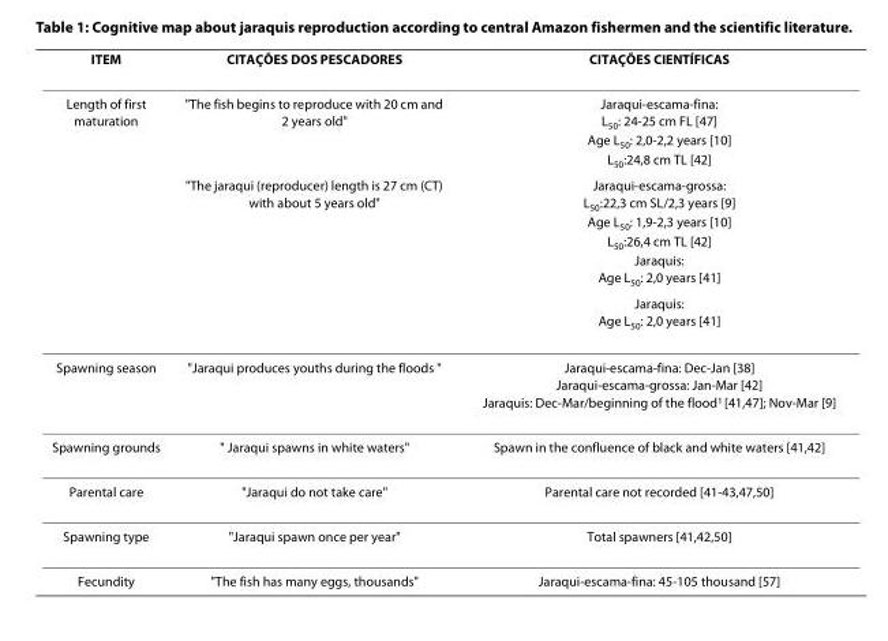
<table><thead><tr><td>ITEM</td><td>CITAÇÕES DOS PESCADORES</td><td>CITAÇÕES CIENTÍFICAS</td></tr></thead><tbody><tr><td rowspan="3">Length of first maturation</td><td>&quot;The fish begins to reproduce with 20 cm and 2 years old&quot;</td><td>Jaraqui-escama-fina: L<sub>50</sub>: 24-25 cm FL [47] Age L<sub>50</sub>: 2,0-2,2 years [10] L<sub>50</sub>:24,8 cm TL [42]</td></tr><tr><td>&quot;The jaraqui (reproducer) length is 27 cm (CT) with about 5 years old&quot;</td><td>Jaraqui-escama-grossa: L<sub>50</sub>:22,3 cm SL/2,3 years [9] Age L<sub>50</sub>: 1,9-2,3 years [10] L<sub>50</sub>:26,4 cm TL [42] Jaraquis: Age L<sub>50</sub>: 2,0 years [41]</td></tr><tr><td></td><td>Jaraquis: Age L<sub>50</sub>: 2,0 years [41]</td></tr><tr><td>Spawning season</td><td>&quot;Jaraqui produces youths during the floods &quot;</td><td>Jaraqui-escama-fina: Dec-Jan [38] Jaraqui-escama-grossa: Jan-Mar [42] Jaraquis: Dec-Mar/beginning of the flood<sup>1</sup> [41,47]; Nov-Mar [9]</td></tr><tr><td>Spawning grounds</td><td>&quot; Jaraqui spawns in white waters&quot;</td><td>Spawn in the confluence of black and white waters [41,42]</td></tr><tr><td>Parental care</td><td>&quot;Jaraqui do not take care&quot;</td><td>Parental care not recorded [41-43,47,50]</td></tr><tr><td>Spawning type</td><td>&quot;Jaraqui spawn once per year&quot;</td><td>Total spawners [41,42,50]</td></tr><tr><td>Fecundity</td><td>&quot;The fish has many eggs, thousands&quot;</td><td>Jaraqui-escama-fina: 45-105 thousand [57]</td></tr></tbody></table>